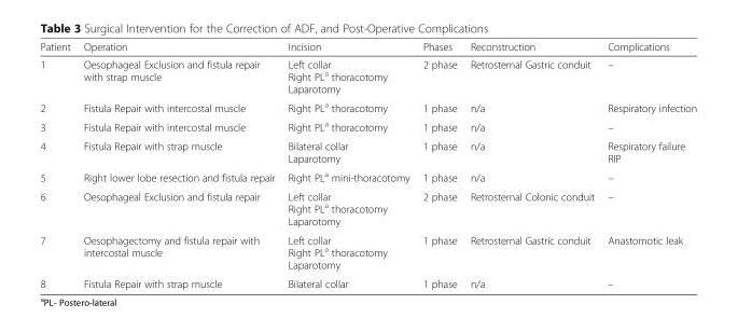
<table><thead><tr><td>Patient</td><td>Operation</td><td>Incision</td><td>Phases</td><td>Reconstruction</td><td>Complications</td></tr></thead><tbody><tr><td>1</td><td>Oesophageal Exclusion and fistula repair with strap muscle</td><td>Left collar Right PL<sup>a</sup> thoracotomy Laparotomy</td><td>2 phase</td><td>Retrosternal Gastric conduit</td><td>–</td></tr><tr><td>2</td><td>Fistula Repair with intercostal muscle</td><td>Right PL<sup>a</sup> thoracotomy</td><td>1 phase</td><td>n/a</td><td>Respiratory infection</td></tr><tr><td>3</td><td>Fistula Repair with intercostal muscle</td><td>Right PL<sup>a</sup> thoracotomy</td><td>1 phase</td><td>n/a</td><td>–</td></tr><tr><td>4</td><td>Fistula Repair with strap muscle</td><td>Bilateral collar Laparotomy</td><td>1 phase</td><td>n/a</td><td>Respiratory failure RIP</td></tr><tr><td>5</td><td>Right lower lobe resection and fistula repair</td><td>Right PL<sup>a</sup> mini-thoracotomy</td><td>1 phase</td><td>n/a</td><td>–</td></tr><tr><td>6</td><td>Oesophageal Exclusion and fistula repair</td><td>Left collar Right PL<sup>a</sup> thoracotomy Laparotomy</td><td>2 phase</td><td>Retrosternal Colonic conduit</td><td>–</td></tr><tr><td>7</td><td>Oesophagectomy and fistula repair with intercostal muscle</td><td>Left collar Right PL<sup>a</sup> thoracotomy Laparotomy</td><td>1 phase</td><td>Retrosternal Gastric conduit</td><td>Anastomotic leak</td></tr><tr><td>8</td><td>Fistula Repair with strap muscle</td><td>Bilateral collar</td><td>1 phase</td><td>n/a</td><td>–</td></tr></tbody></table>